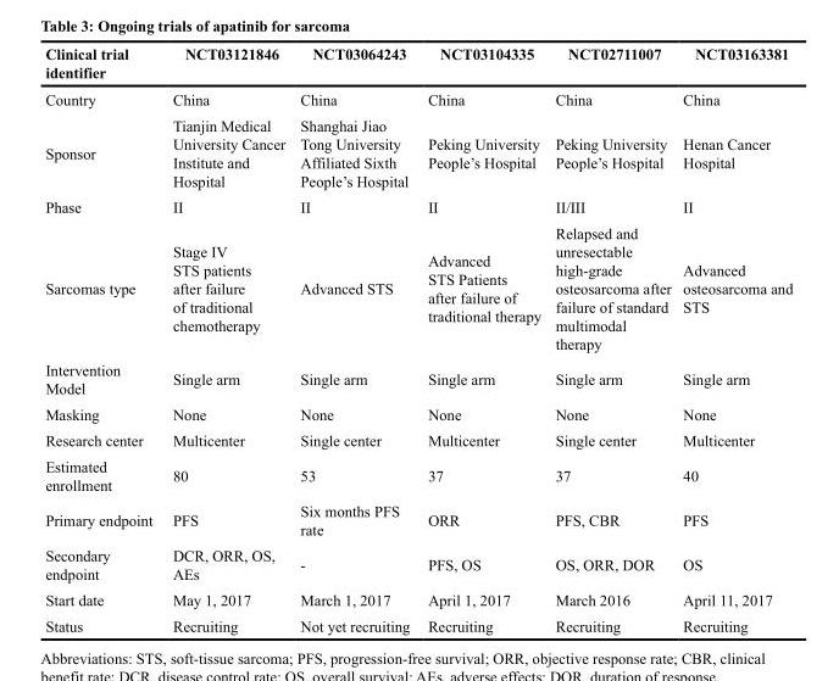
<table><thead><tr><td>Clinical trial identifier</td><td>NCT03121846</td><td>NCT03064243</td><td>NCT03104335</td><td>NCT02711007</td><td>NCT03163381</td></tr></thead><tbody><tr><td>Country</td><td>China</td><td>China</td><td>China</td><td>China</td><td>China</td></tr><tr><td>Sponsor</td><td>Tianjin Medical University Cancer Institute and Hospital</td><td>Shanghai Jiao Tong University Affiliated Sixth People’s Hospital</td><td>Peking University People’s Hospital</td><td>Peking University People’s Hospital</td><td>Henan Cancer Hospital</td></tr><tr><td>Phase</td><td>II</td><td>II</td><td>II</td><td>II/III</td><td>II</td></tr><tr><td>Sarcomas type</td><td>Stage IV STS patients after failure of traditional chemotherapy</td><td>Advanced STS</td><td>Advanced STS Patients after failure of traditional therapy</td><td>Relapsed and unresectable high-grade osteosarcoma after failure of standard multimodal therapy</td><td>Advanced osteosarcoma and STS</td></tr><tr><td>Intervention Model</td><td>Single arm</td><td>Single arm</td><td>Single arm</td><td>Single arm</td><td>Single arm</td></tr><tr><td>Masking</td><td>None</td><td>None</td><td>None</td><td>None</td><td>None</td></tr><tr><td>Research center</td><td>Multicenter</td><td>Single center</td><td>Multicenter</td><td>Single center</td><td>Multicenter</td></tr><tr><td>Estimated enrollment</td><td>80</td><td>53</td><td>37</td><td>37</td><td>40</td></tr><tr><td>Primary endpoint</td><td>PFS</td><td>Six months PFS rate</td><td>ORR</td><td>PFS, CBR</td><td>PFS</td></tr><tr><td>Secondary endpoint</td><td>DCR, ORR, OS, AEs</td><td>-</td><td>PFS, OS</td><td>OS, ORR, DOR</td><td>OS</td></tr><tr><td>Start date</td><td>May 1, 2017</td><td>March 1, 2017</td><td>April 1, 2017</td><td>March 2016</td><td>April 11, 2017</td></tr><tr><td>Status</td><td>Recruiting</td><td>Not yet recruiting</td><td>Recruiting</td><td>Recruiting</td><td>Recruiting</td></tr></tbody></table>